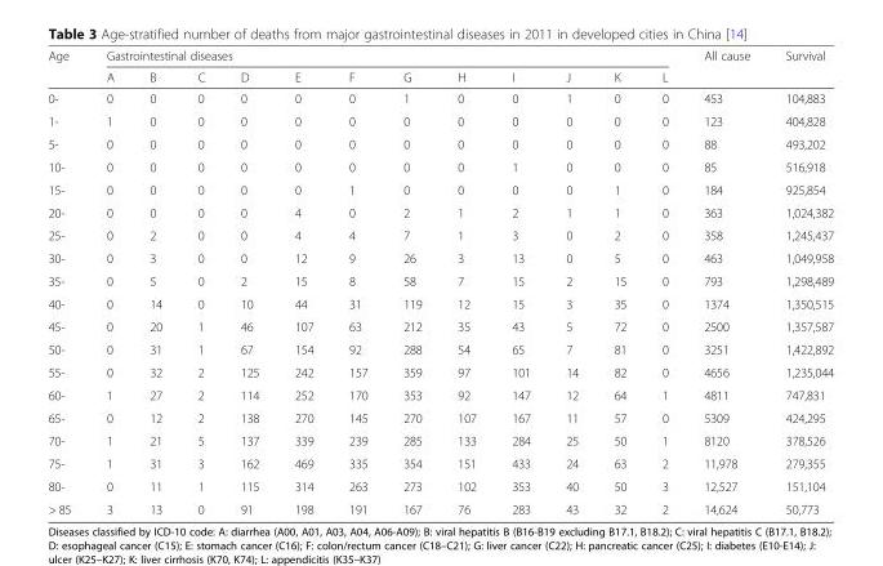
<table><thead><tr><td rowspan="2">Age</td><td colspan="12">Gastrointestinal diseases</td><td rowspan="2">All cause</td><td rowspan="2">Survival</td></tr><tr><td>A</td><td>B</td><td>C</td><td>D</td><td>E</td><td>F</td><td>G</td><td>H</td><td>I</td><td>J</td><td>K</td><td>L</td></tr></thead><tbody><tr><td>0-</td><td>0</td><td>0</td><td>0</td><td>0</td><td>0</td><td>0</td><td>1</td><td>0</td><td>0</td><td>1</td><td>0</td><td>0</td><td>453</td><td>104,883</td></tr><tr><td>1-</td><td>1</td><td>0</td><td>0</td><td>0</td><td>0</td><td>0</td><td>0</td><td>0</td><td>0</td><td>0</td><td>0</td><td>0</td><td>123</td><td>404,828</td></tr><tr><td>5-</td><td>0</td><td>0</td><td>0</td><td>0</td><td>0</td><td>0</td><td>0</td><td>0</td><td>0</td><td>0</td><td>0</td><td>0</td><td>88</td><td>493,202</td></tr><tr><td>10-</td><td>0</td><td>0</td><td>0</td><td>0</td><td>0</td><td>0</td><td>0</td><td>0</td><td>1</td><td>0</td><td>0</td><td>0</td><td>85</td><td>516,918</td></tr><tr><td>15-</td><td>0</td><td>0</td><td>0</td><td>0</td><td>0</td><td>1</td><td>0</td><td>0</td><td>0</td><td>0</td><td>1</td><td>0</td><td>184</td><td>925,854</td></tr><tr><td>20-</td><td>0</td><td>0</td><td>0</td><td>0</td><td>4</td><td>0</td><td>2</td><td>1</td><td>2</td><td>1</td><td>1</td><td>0</td><td>363</td><td>1,024,382</td></tr><tr><td>25-</td><td>0</td><td>2</td><td>0</td><td>0</td><td>4</td><td>4</td><td>7</td><td>1</td><td>3</td><td>0</td><td>2</td><td>0</td><td>358</td><td>1,245,437</td></tr><tr><td>30-</td><td>0</td><td>3</td><td>0</td><td>0</td><td>12</td><td>9</td><td>26</td><td>3</td><td>13</td><td>0</td><td>5</td><td>0</td><td>463</td><td>1,049,958</td></tr><tr><td>35-</td><td>0</td><td>5</td><td>0</td><td>2</td><td>15</td><td>8</td><td>58</td><td>7</td><td>15</td><td>2</td><td>15</td><td>0</td><td>793</td><td>1,298,489</td></tr><tr><td>40-</td><td>0</td><td>14</td><td>0</td><td>10</td><td>44</td><td>31</td><td>119</td><td>12</td><td>15</td><td>3</td><td>35</td><td>0</td><td>1374</td><td>1,350,515</td></tr><tr><td>45-</td><td>0</td><td>20</td><td>1</td><td>46</td><td>107</td><td>63</td><td>212</td><td>35</td><td>43</td><td>5</td><td>72</td><td>0</td><td>2500</td><td>1,357,587</td></tr><tr><td>50-</td><td>0</td><td>31</td><td>1</td><td>67</td><td>154</td><td>92</td><td>288</td><td>54</td><td>65</td><td>7</td><td>81</td><td>0</td><td>3251</td><td>1,422,892</td></tr><tr><td>55-</td><td>0</td><td>32</td><td>2</td><td>125</td><td>242</td><td>157</td><td>359</td><td>97</td><td>101</td><td>14</td><td>82</td><td>0</td><td>4656</td><td>1,235,044</td></tr><tr><td>60-</td><td>1</td><td>27</td><td>2</td><td>114</td><td>252</td><td>170</td><td>353</td><td>92</td><td>147</td><td>12</td><td>64</td><td>1</td><td>4811</td><td>747,831</td></tr><tr><td>65-</td><td>0</td><td>12</td><td>2</td><td>138</td><td>270</td><td>145</td><td>270</td><td>107</td><td>167</td><td>11</td><td>57</td><td>0</td><td>5309</td><td>424,295</td></tr><tr><td>70-</td><td>1</td><td>21</td><td>5</td><td>137</td><td>339</td><td>239</td><td>285</td><td>133</td><td>284</td><td>25</td><td>50</td><td>1</td><td>8120</td><td>378,526</td></tr><tr><td>75-</td><td>1</td><td>31</td><td>3</td><td>162</td><td>469</td><td>335</td><td>354</td><td>151</td><td>433</td><td>24</td><td>63</td><td>2</td><td>11,978</td><td>279,355</td></tr><tr><td>80-</td><td>0</td><td>11</td><td>1</td><td>115</td><td>314</td><td>263</td><td>273</td><td>102</td><td>353</td><td>40</td><td>50</td><td>3</td><td>12,527</td><td>151,104</td></tr><tr><td>&gt; 85</td><td>3</td><td>13</td><td>0</td><td>91</td><td>198</td><td>191</td><td>167</td><td>76</td><td>283</td><td>43</td><td>32</td><td>2</td><td>14,624</td><td>50,773</td></tr></tbody></table>